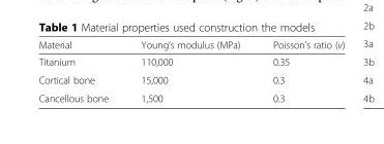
<table><thead><tr><td>Material</td><td>Young’s modulus (MPa)</td><td>Poisson’s ratio (v)</td></tr></thead><tbody><tr><td>Titanium</td><td>110,000</td><td>0.35</td></tr><tr><td>Cortical bone</td><td>15,000</td><td>0.3</td></tr><tr><td>Cancellous bone</td><td>1,500</td><td>0.3</td></tr></tbody></table>